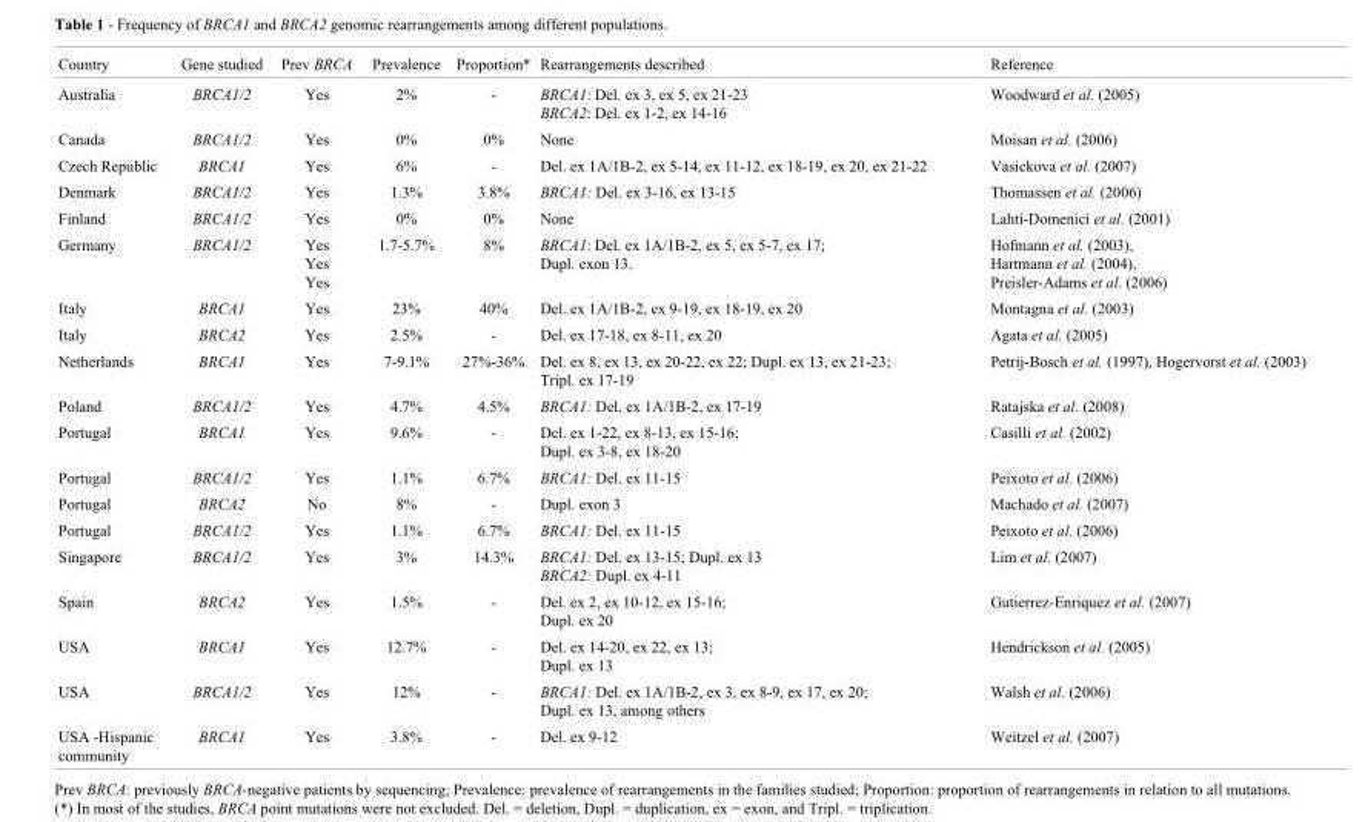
<table><thead><tr><td>Country</td><td>Gene studied</td><td>Prev BRCA</td><td>Prevalence</td><td>Proportion*</td><td>Rearrangements described</td><td>Reference</td></tr></thead><tbody><tr><td>Australia</td><td>BRCA1/2</td><td>Yes</td><td>2%</td><td>-</td><td>BRCA1: Del. ex 3, ex 5, ex 21-23 BRCA2: Del. ex 1-2, ex 14-16</td><td>Woodward et al. (2005)</td></tr><tr><td>Canada</td><td>BRCA1/2</td><td>Yes</td><td>0%</td><td>0%</td><td>None</td><td>Moisan et al. (2006)</td></tr><tr><td>Czech Republic</td><td>BRCA1</td><td>Yes</td><td>6%</td><td>-</td><td>Del. ex 1A/1B-2, ex 5-14, ex 11-12, ex 18-19, ex 20, ex 21-22</td><td>Vasickova et al. (2007)</td></tr><tr><td>Denmark</td><td>BRCA1/2</td><td>Yes</td><td>1.3%</td><td>3.8%</td><td>BRCA1: Del. ex 3-16, ex 13-15</td><td>Thomassen et al. (2006)</td></tr><tr><td>Finland</td><td>BRCA1/2</td><td>Yes</td><td>0%</td><td>0%</td><td>None</td><td>Lahti-Domenici et al. (2001)</td></tr><tr><td>Germany</td><td>BRCA1/2</td><td>Yes Yes Yes</td><td>1.7-5.7%</td><td>8%</td><td>BRCA1: Del. ex 1A/1B-2, ex 5, ex 5-7, ex 17; Dupl. exon 13.</td><td>Hofmann et al. (2003), Hartmann et al. (2004), Preisler-Adams et al. (2006)</td></tr><tr><td>Italy</td><td>BRCA1</td><td>Yes</td><td>23%</td><td>40%</td><td>Del. ex 1A/1B-2, ex 9-19, ex 18-19, ex 20</td><td>Montagna et al. (2003)</td></tr><tr><td>Italy</td><td>BRCA2</td><td>Yes</td><td>2.5%</td><td>-</td><td>Del. ex 17-18, ex 8-11, ex 20</td><td>Agata et al. (2005)</td></tr><tr><td>Netherlands</td><td>BRCA1</td><td>Yes</td><td>7-9.1%</td><td>27%-36%</td><td>Del. ex 8, ex 13, ex 20-22, ex 22; Dupl. ex 13, ex 21-23; Tripl. ex 17-19</td><td>Petrij-Bosch et al. (1997), Hogervorst et al. (2003)</td></tr><tr><td>Poland</td><td>BRCA1/2</td><td>Yes</td><td>4.7%</td><td>4.5%</td><td>BRCA1: Del. ex 1A/1B-2, ex 17-19</td><td>Ratajska et al. (2008)</td></tr><tr><td>Portugal</td><td>BRCA1</td><td>Yes</td><td>9.6%</td><td>-</td><td>Del. ex 1-22, ex 8-13, ex 15-16; Dupl. ex 3-8, ex 18-20</td><td>Casilli et al. (2002)</td></tr><tr><td>Portugal</td><td>BRCA1/2</td><td>Yes</td><td>1.1%</td><td>6.7%</td><td>BRCA1: Del. ex 11-15</td><td>Peixoto et al. (2006)</td></tr><tr><td>Portugal</td><td>BRCA2</td><td>No</td><td>8%</td><td>-</td><td>Dupl. exon 3</td><td>Machado et al. (2007)</td></tr><tr><td>Portugal</td><td>BRCA1/2</td><td>Yes</td><td>1.1%</td><td>6.7%</td><td>BRCA1: Del. ex 11-15</td><td>Peixoto et al. (2006)</td></tr><tr><td>Singapore</td><td>BRCA1/2</td><td>Yes</td><td>3%</td><td>14.3%</td><td>BRCA1: Del. ex 13-15; Dupl. ex 13 BRCA2: Dupl. ex 4-11</td><td>Lim et al. (2007)</td></tr><tr><td>Spain</td><td>BRCA2</td><td>Yes</td><td>1.5%</td><td>-</td><td>Del. ex 2, ex 10-12, ex 15-16; Dupl. ex 20</td><td>Gutierrez-Enriquez et al. (2007)</td></tr><tr><td>USA</td><td>BRCA1</td><td>Yes</td><td>12.7%</td><td>-</td><td>Del. ex 14-20, ex 22, ex 13; Dupl. ex 13</td><td>Hendrickson et al. (2005)</td></tr><tr><td>USA</td><td>BRCA1/2</td><td>Yes</td><td>12%</td><td>-</td><td>BRCA1: Del. ex 1A/1B-2, ex 3, ex 8-9, ex 17, ex 20; Dupl. ex 13, among others</td><td>Walsh et al. (2006)</td></tr><tr><td>USA -Hispanic community</td><td>BRCA1</td><td>Yes</td><td>3.8%</td><td>-</td><td>Del. ex 9-12</td><td>Weitzel et al. (2007)</td></tr></tbody></table>